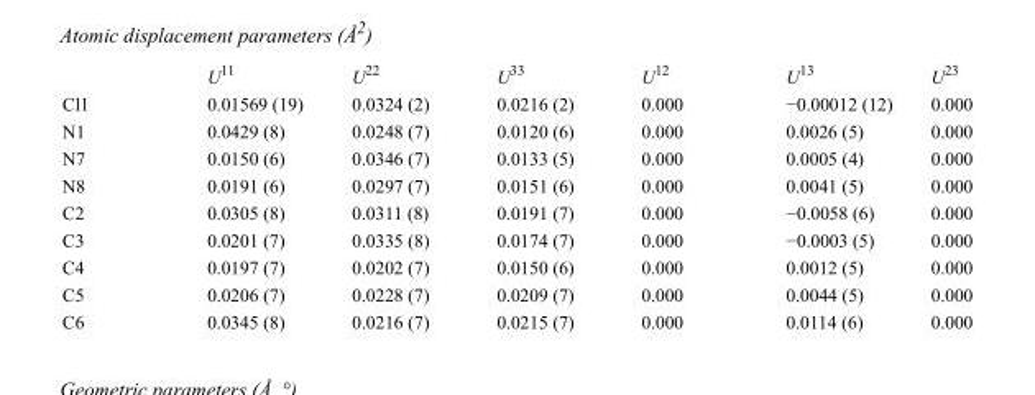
<table><thead><tr><td></td><td>U<sup>11</sup></td><td>U<sup>22</sup></td><td>U<sup>33</sup></td><td>U<sup>12</sup></td><td>U<sup>13</sup></td><td>U<sup>23</sup></td></tr></thead><tbody><tr><td>Cl1</td><td>0.01569 (19)</td><td>0.0324 (2)</td><td>0.0216 (2)</td><td>0.000</td><td>−0.00012 (12)</td><td>0.000</td></tr><tr><td>N1</td><td>0.0429 (8)</td><td>0.0248 (7)</td><td>0.0120 (6)</td><td>0.000</td><td>0.0026 (5)</td><td>0.000</td></tr><tr><td>N7</td><td>0.0150 (6)</td><td>0.0346 (7)</td><td>0.0133 (5)</td><td>0.000</td><td>0.0005 (4)</td><td>0.000</td></tr><tr><td>N8</td><td>0.0191 (6)</td><td>0.0297 (7)</td><td>0.0151 (6)</td><td>0.000</td><td>0.0041 (5)</td><td>0.000</td></tr><tr><td>C2</td><td>0.0305 (8)</td><td>0.0311 (8)</td><td>0.0191 (7)</td><td>0.000</td><td>−0.0058 (6)</td><td>0.000</td></tr><tr><td>C3</td><td>0.0201 (7)</td><td>0.0335 (8)</td><td>0.0174 (7)</td><td>0.000</td><td>−0.0003 (5)</td><td>0.000</td></tr><tr><td>C4</td><td>0.0197 (7)</td><td>0.0202 (7)</td><td>0.0150 (6)</td><td>0.000</td><td>0.0012 (5)</td><td>0.000</td></tr><tr><td>C5</td><td>0.0206 (7)</td><td>0.0228 (7)</td><td>0.0209 (7)</td><td>0.000</td><td>0.0044 (5)</td><td>0.000</td></tr><tr><td>C6</td><td>0.0345 (8)</td><td>0.0216 (7)</td><td>0.0215 (7)</td><td>0.000</td><td>0.0114 (6)</td><td>0.000</td></tr></tbody></table>